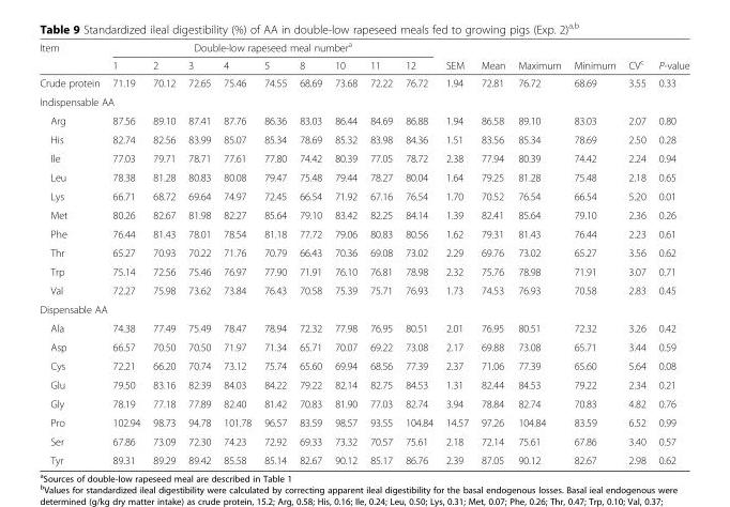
<table><thead><tr><td rowspan="2">Item</td><td colspan="9">Double-low rapeseed meal number<sup>a</sup></td><td rowspan="2">SEM</td><td rowspan="2">Mean</td><td rowspan="2">Maximum</td><td rowspan="2">Minimum</td><td rowspan="2">CV<sup>c</sup></td><td rowspan="2">P-value</td></tr><tr><td>1</td><td>2</td><td>3</td><td>4</td><td>5</td><td>8</td><td>10</td><td>11</td><td>12</td></tr></thead><tbody><tr><td>Crude protein</td><td>71.19</td><td>70.12</td><td>72.65</td><td>75.46</td><td>74.55</td><td>68.69</td><td>73.68</td><td>72.22</td><td>76.72</td><td>1.94</td><td>72.81</td><td>76.72</td><td>68.69</td><td>3.55</td><td>0.33</td></tr><tr><td colspan="16">Indispensable AA</td></tr><tr><td>Arg</td><td>87.56</td><td>89.10</td><td>87.41</td><td>87.76</td><td>86.36</td><td>83.03</td><td>86.44</td><td>84.69</td><td>86.88</td><td>1.94</td><td>86.58</td><td>89.10</td><td>83.03</td><td>2.07</td><td>0.80</td></tr><tr><td>His</td><td>82.74</td><td>82.56</td><td>83.99</td><td>85.07</td><td>85.34</td><td>78.69</td><td>85.32</td><td>83.98</td><td>84.36</td><td>1.51</td><td>83.56</td><td>85.34</td><td>78.69</td><td>2.50</td><td>0.28</td></tr><tr><td>Ile</td><td>77.03</td><td>79.71</td><td>78.71</td><td>77.61</td><td>77.80</td><td>74.42</td><td>80.39</td><td>77.05</td><td>78.72</td><td>2.38</td><td>77.94</td><td>80.39</td><td>74.42</td><td>2.24</td><td>0.94</td></tr><tr><td>Leu</td><td>78.38</td><td>81.28</td><td>80.83</td><td>80.08</td><td>79.47</td><td>75.48</td><td>79.44</td><td>78.27</td><td>80.04</td><td>1.64</td><td>79.25</td><td>81.28</td><td>75.48</td><td>2.18</td><td>0.65</td></tr><tr><td>Lys</td><td>66.71</td><td>68.72</td><td>69.64</td><td>74.97</td><td>72.45</td><td>66.54</td><td>71.92</td><td>67.16</td><td>76.54</td><td>1.70</td><td>70.52</td><td>76.54</td><td>66.54</td><td>5.20</td><td>0.01</td></tr><tr><td>Met</td><td>80.26</td><td>82.67</td><td>81.98</td><td>82.27</td><td>85.64</td><td>79.10</td><td>83.42</td><td>82.25</td><td>84.14</td><td>1.39</td><td>82.41</td><td>85.64</td><td>79.10</td><td>2.36</td><td>0.26</td></tr><tr><td>Phe</td><td>76.44</td><td>81.43</td><td>78.01</td><td>78.54</td><td>81.18</td><td>77.72</td><td>79.06</td><td>80.83</td><td>80.56</td><td>1.62</td><td>79.31</td><td>81.43</td><td>76.44</td><td>2.23</td><td>0.61</td></tr><tr><td>Thr</td><td>65.27</td><td>70.93</td><td>70.22</td><td>71.76</td><td>70.79</td><td>66.43</td><td>70.36</td><td>69.08</td><td>73.02</td><td>2.29</td><td>69.76</td><td>73.02</td><td>65.27</td><td>3.56</td><td>0.62</td></tr><tr><td>Trp</td><td>75.14</td><td>72.56</td><td>75.46</td><td>76.97</td><td>77.90</td><td>71.91</td><td>76.10</td><td>76.81</td><td>78.98</td><td>2.32</td><td>75.76</td><td>78.98</td><td>71.91</td><td>3.07</td><td>0.71</td></tr><tr><td>Val</td><td>72.27</td><td>75.98</td><td>73.62</td><td>73.84</td><td>76.43</td><td>70.58</td><td>75.39</td><td>75.71</td><td>76.93</td><td>1.73</td><td>74.53</td><td>76.93</td><td>70.58</td><td>2.83</td><td>0.45</td></tr><tr><td colspan="16">Dispensable AA</td></tr><tr><td>Ala</td><td>74.38</td><td>77.49</td><td>75.49</td><td>78.47</td><td>78.94</td><td>72.32</td><td>77.98</td><td>76.95</td><td>80.51</td><td>2.01</td><td>76.95</td><td>80.51</td><td>72.32</td><td>3.26</td><td>0.42</td></tr><tr><td>Asp</td><td>66.57</td><td>70.50</td><td>70.50</td><td>71.97</td><td>71.34</td><td>65.71</td><td>70.07</td><td>69.22</td><td>73.08</td><td>2.17</td><td>69.88</td><td>73.08</td><td>65.71</td><td>3.44</td><td>0.59</td></tr><tr><td>Cys</td><td>72.21</td><td>66.20</td><td>70.74</td><td>73.12</td><td>75.74</td><td>65.60</td><td>69.94</td><td>68.56</td><td>77.39</td><td>2.37</td><td>71.06</td><td>77.39</td><td>65.60</td><td>5.64</td><td>0.08</td></tr><tr><td>Glu</td><td>79.50</td><td>83.16</td><td>82.39</td><td>84.03</td><td>84.22</td><td>79.22</td><td>82.14</td><td>82.75</td><td>84.53</td><td>1.31</td><td>82.44</td><td>84.53</td><td>79.22</td><td>2.34</td><td>0.21</td></tr><tr><td>Gly</td><td>78.19</td><td>77.18</td><td>77.89</td><td>82.40</td><td>81.42</td><td>70.83</td><td>81.90</td><td>77.03</td><td>82.74</td><td>3.94</td><td>78.84</td><td>82.74</td><td>70.83</td><td>4.82</td><td>0.76</td></tr><tr><td>Pro</td><td>102.94</td><td>98.73</td><td>94.78</td><td>101.78</td><td>96.57</td><td>83.59</td><td>98.57</td><td>93.55</td><td>104.84</td><td>14.57</td><td>97.26</td><td>104.84</td><td>83.59</td><td>6.52</td><td>0.99</td></tr><tr><td>Ser</td><td>67.86</td><td>73.09</td><td>72.30</td><td>74.23</td><td>72.92</td><td>69.33</td><td>73.32</td><td>70.57</td><td>75.61</td><td>2.18</td><td>72.14</td><td>75.61</td><td>67.86</td><td>3.40</td><td>0.57</td></tr><tr><td>Tyr</td><td>89.31</td><td>89.29</td><td>89.42</td><td>85.58</td><td>85.14</td><td>82.67</td><td>90.12</td><td>85.17</td><td>86.76</td><td>2.39</td><td>87.05</td><td>90.12</td><td>82.67</td><td>2.98</td><td>0.62</td></tr></tbody></table>